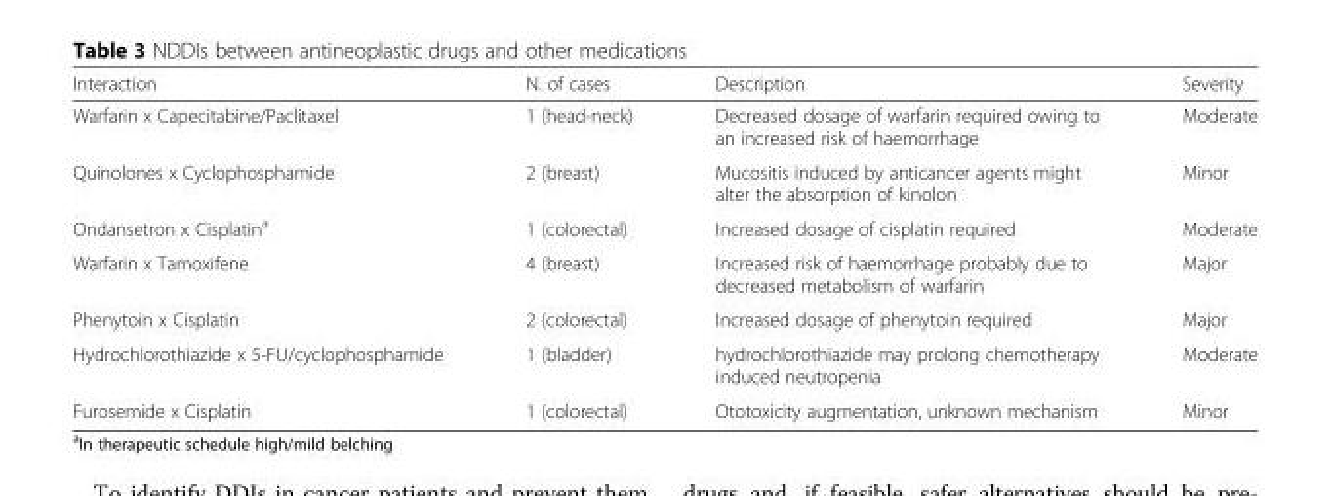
<table><thead><tr><td>Interaction</td><td>N. of cases</td><td>Description</td><td>Severity</td></tr></thead><tbody><tr><td>Warfarin x Capecitabine/Paclitaxel</td><td>1 (head-neck)</td><td>Decreased dosage of warfarin required owing to an increased risk of haemorrhage</td><td>Moderate</td></tr><tr><td>Quinolones x Cyclophosphamide</td><td>2 (breast)</td><td>Mucositis induced by anticancer agents might alter the absorption of kinolon</td><td>Minor</td></tr><tr><td>Ondansetron x Cisplatin<sup>a</sup></td><td>1 (colorectal)</td><td>Increased dosage of cisplatin required</td><td>Moderate</td></tr><tr><td>Warfarin x Tamoxifene</td><td>4 (breast)</td><td>Increased risk of haemorrhage probably due to decreased metabolism of warfarin</td><td>Major</td></tr><tr><td>Phenytoin x Cisplatin</td><td>2 (colorectal)</td><td>Increased dosage of phenytoin required</td><td>Major</td></tr><tr><td>Hydrochlorothiazide x 5-FU/cyclophosphamide</td><td>1 (bladder)</td><td>hydrochlorothiazide may prolong chemotherapy induced neutropenia</td><td>Moderate</td></tr><tr><td>Furosemide x Cisplatin</td><td>1 (colorectal)</td><td>Ototoxicity augmentation, unknown mechanism</td><td>Minor</td></tr></tbody></table>